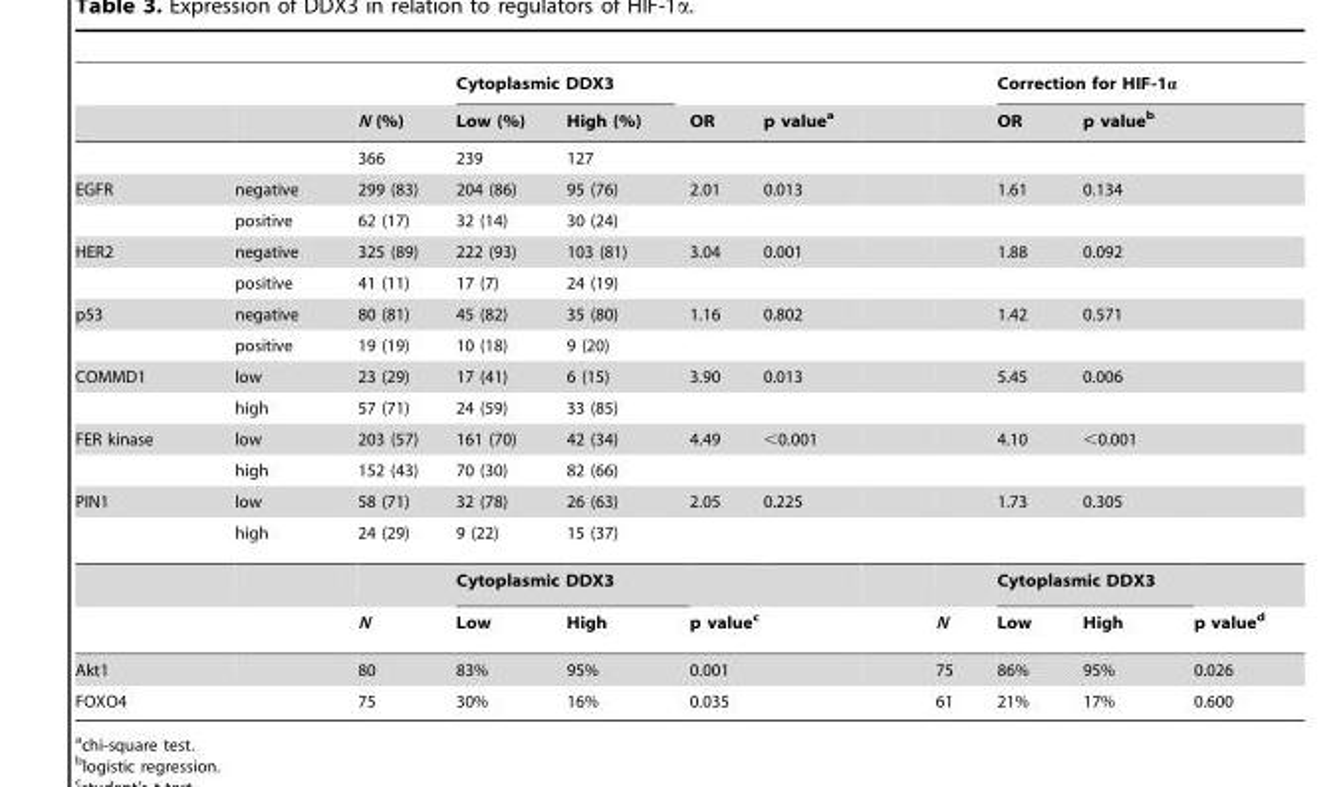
<table><thead><tr><td rowspan="2"></td><td rowspan="2"></td><td rowspan="2">N (%)</td><td colspan="2">Cytoplasmic DDX3</td><td rowspan="2">OR</td><td rowspan="2">p value<sup>a</sup></td><td rowspan="2"></td><td colspan="3">Correction for HIF-1α</td></tr><tr><td>Low (%)</td><td>High (%)</td><td>OR</td><td>p value<sup>b</sup></td><td></td></tr></thead><tbody><tr><td></td><td></td><td>366</td><td>239</td><td>127</td><td></td><td></td><td></td><td></td><td></td><td></td></tr><tr><td rowspan="2">EGFR</td><td>negative</td><td>299 (83)</td><td>204 (86)</td><td>95 (76)</td><td>2.01</td><td>0.013</td><td></td><td>1.61</td><td>0.134</td><td></td></tr><tr><td>positive</td><td>62 (17)</td><td>32 (14)</td><td>30 (24)</td><td></td><td></td><td></td><td></td><td></td><td></td></tr><tr><td rowspan="2">HER2</td><td>negative</td><td>325 (89)</td><td>222 (93)</td><td>103 (81)</td><td>3.04</td><td>0.001</td><td></td><td>1.88</td><td>0.092</td><td></td></tr><tr><td>positive</td><td>41 (11)</td><td>17 (7)</td><td>24 (19)</td><td></td><td></td><td></td><td></td><td></td><td></td></tr><tr><td rowspan="2">p53</td><td>negative</td><td>80 (81)</td><td>45 (82)</td><td>35 (80)</td><td>1.16</td><td>0.802</td><td></td><td>1.42</td><td>0.571</td><td></td></tr><tr><td>positive</td><td>19 (19)</td><td>10 (18)</td><td>9 (20)</td><td></td><td></td><td></td><td></td><td></td><td></td></tr><tr><td rowspan="2">COMMD1</td><td>low</td><td>23 (29)</td><td>17 (41)</td><td>6 (15)</td><td>3.90</td><td>0.013</td><td></td><td>5.45</td><td>0.006</td><td></td></tr><tr><td>high</td><td>57 (71)</td><td>24 (59)</td><td>33 (85)</td><td></td><td></td><td></td><td></td><td></td><td></td></tr><tr><td rowspan="2">FER kinase</td><td>low</td><td>203 (57)</td><td>161 (70)</td><td>42 (34)</td><td>4.49</td><td>&lt;0.001</td><td></td><td>4.10</td><td>&lt;0.001</td><td></td></tr><tr><td>high</td><td>152 (43)</td><td>70 (30)</td><td>82 (66)</td><td></td><td></td><td></td><td></td><td></td><td></td></tr><tr><td rowspan="4">PIN1</td><td>low</td><td>58 (71)</td><td>32 (78)</td><td>26 (63)</td><td>2.05</td><td>0.225</td><td></td><td>1.73</td><td>0.305</td><td></td></tr><tr><td>high</td><td>24 (29)</td><td>9 (22)</td><td>15 (37)</td><td></td><td></td><td></td><td></td><td></td><td></td></tr><tr><td></td><td></td><td colspan="2">Cytoplasmic DDX3</td><td></td><td></td><td></td><td colspan="2">Cytoplasmic DDX3</td><td></td></tr><tr><td></td><td>N</td><td>Low</td><td>High</td><td colspan="2">p valuec</td><td>N</td><td>Low</td><td>High</td><td>p valued</td></tr><tr><td>Akt1</td><td></td><td>80</td><td>83%</td><td>95%</td><td colspan="2">0.001</td><td>75</td><td>86%</td><td>95%</td><td>0.026</td></tr><tr><td>FOXO4</td><td></td><td>75</td><td>30%</td><td>16%</td><td colspan="2">0.035</td><td>61</td><td>21%</td><td>17%</td><td>0.600</td></tr></tbody></table>